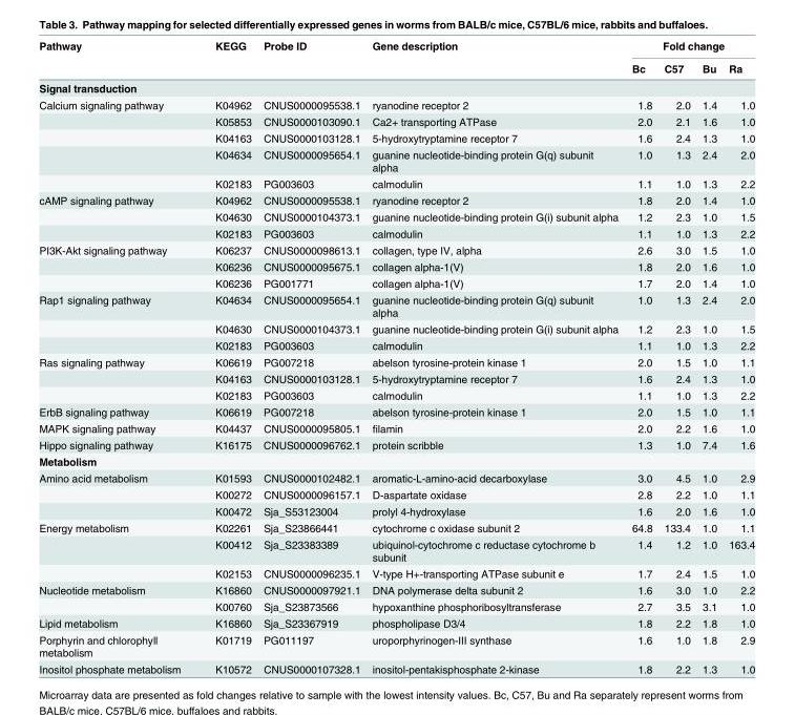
<table><thead><tr><td rowspan="2">Pathway</td><td rowspan="2">KEGG</td><td rowspan="2">Probe ID</td><td rowspan="2">Gene description</td><td colspan="4">Fold change</td></tr><tr><td>Bc</td><td>C57</td><td>Bu</td><td>Ra</td></tr></thead><tbody><tr><td colspan="8">Signal transduction</td></tr><tr><td rowspan="5">Calcium signaling pathway</td><td>K04962</td><td>CNUS0000095538.1</td><td>ryanodine receptor 2</td><td>1.8</td><td>2.0</td><td>1.4</td><td>1.0</td></tr><tr><td>K05853</td><td>CNUS0000103090.1</td><td>Ca2+ transporting ATPase</td><td>2.0</td><td>2.1</td><td>1.6</td><td>1.0</td></tr><tr><td>K04163</td><td>CNUS0000103128.1</td><td>5-hydroxytryptamine receptor 7</td><td>1.6</td><td>2.4</td><td>1.3</td><td>1.0</td></tr><tr><td>K04634</td><td>CNUS0000095654.1</td><td>guanine nucleotide-binding protein G(q) subunit alpha</td><td>1.0</td><td>1.3</td><td>2.4</td><td>2.0</td></tr><tr><td>K02183</td><td>PG003603</td><td>calmodulin</td><td>1.1</td><td>1.0</td><td>1.3</td><td>2.2</td></tr><tr><td rowspan="3">cAMP signaling pathway</td><td>K04962</td><td>CNUS0000095538.1</td><td>ryanodine receptor 2</td><td>1.8</td><td>2.0</td><td>1.4</td><td>1.0</td></tr><tr><td>K04630</td><td>CNUS0000104373.1</td><td>guanine nucleotide-binding protein G(i) subunit alpha</td><td>1.2</td><td>2.3</td><td>1.0</td><td>1.5</td></tr><tr><td>K02183</td><td>PG003603</td><td>calmodulin</td><td>1.1</td><td>1.0</td><td>1.3</td><td>2.2</td></tr><tr><td rowspan="3">PI3K-Akt signaling pathway</td><td>K06237</td><td>CNUS0000098613.1</td><td>collagen, type IV, alpha</td><td>2.6</td><td>3.0</td><td>1.5</td><td>1.0</td></tr><tr><td>K06236</td><td>CNUS0000095675.1</td><td>collagen alpha-1(V)</td><td>1.8</td><td>2.0</td><td>1.6</td><td>1.0</td></tr><tr><td>K06236</td><td>PG001771</td><td>collagen alpha-1(V)</td><td>1.7</td><td>2.0</td><td>1.4</td><td>1.0</td></tr><tr><td rowspan="3">Rap1 signaling pathway</td><td>K04634</td><td>CNUS0000095654.1</td><td>guanine nucleotide-binding protein G(q) subunit alpha</td><td>1.0</td><td>1.3</td><td>2.4</td><td>2.0</td></tr><tr><td>K04630</td><td>CNUS0000104373.1</td><td>guanine nucleotide-binding protein G(i) subunit alpha</td><td>1.2</td><td>2.3</td><td>1.0</td><td>1.5</td></tr><tr><td>K02183</td><td>PG003603</td><td>calmodulin</td><td>1.1</td><td>1.0</td><td>1.3</td><td>2.2</td></tr><tr><td rowspan="3">Ras signaling pathway</td><td>K06619</td><td>PG007218</td><td>abelson tyrosine-protein kinase 1</td><td>2.0</td><td>1.5</td><td>1.0</td><td>1.1</td></tr><tr><td>K04163</td><td>CNUS0000103128.1</td><td>5-hydroxytryptamine receptor 7</td><td>1.6</td><td>2.4</td><td>1.3</td><td>1.0</td></tr><tr><td>K02183</td><td>PG003603</td><td>calmodulin</td><td>1.1</td><td>1.0</td><td>1.3</td><td>2.2</td></tr><tr><td>ErbB signaling pathway</td><td>K06619</td><td>PG007218</td><td>abelson tyrosine-protein kinase 1</td><td>2.0</td><td>1.5</td><td>1.0</td><td>1.1</td></tr><tr><td>MAPK signaling pathway</td><td>K04437</td><td>CNUS0000095805.1</td><td>filamin</td><td>2.0</td><td>2.2</td><td>1.6</td><td>1.0</td></tr><tr><td>Hippo signaling pathway</td><td>K16175</td><td>CNUS0000096762.1</td><td>protein scribble</td><td>1.3</td><td>1.0</td><td>7.4</td><td>1.6</td></tr><tr><td colspan="8">Metabolism</td></tr><tr><td rowspan="3">Amino acid metabolism</td><td>K01593</td><td>CNUS0000102482.1</td><td>aromatic-L-amino-acid decarboxylase</td><td>3.0</td><td>4.5</td><td>1.0</td><td>2.9</td></tr><tr><td>K00272</td><td>CNUS0000096157.1</td><td>D-aspartate oxidase</td><td>2.8</td><td>2.2</td><td>1.0</td><td>1.1</td></tr><tr><td>K00472</td><td>Sja_S53123004</td><td>prolyl 4-hydroxylase</td><td>1.6</td><td>2.0</td><td>1.6</td><td>1.0</td></tr><tr><td rowspan="3">Energy metabolism</td><td>K02261</td><td>Sja_S23866441</td><td>cytochrome c oxidase subunit 2</td><td>64.8</td><td>133.4</td><td>1.0</td><td>1.1</td></tr><tr><td>K00412</td><td>Sja_S23383389</td><td>ubiquinol-cytochrome c reductase cytochrome b subunit</td><td>1.4</td><td>1.2</td><td>1.0</td><td>163.4</td></tr><tr><td>K02153</td><td>CNUS0000096235.1</td><td>V-type H+-transporting ATPase subunit e</td><td>1.7</td><td>2.4</td><td>1.5</td><td>1.0</td></tr><tr><td rowspan="2">Nucleotide metabolism</td><td>K16860</td><td>CNUS0000097921.1</td><td>DNA polymerase delta subunit 2</td><td>1.6</td><td>3.0</td><td>1.0</td><td>2.2</td></tr><tr><td>K00760</td><td>Sja_S23873566</td><td>hypoxanthine phosphoribosyltransferase</td><td>2.7</td><td>3.5</td><td>3.1</td><td>1.0</td></tr><tr><td>Lipid metabolism</td><td>K16860</td><td>Sja_S23367919</td><td>phospholipase D3/4</td><td>1.8</td><td>2.2</td><td>1.8</td><td>1.0</td></tr><tr><td>Porphyrin and chlorophyll metabolism</td><td>K01719</td><td>PG011197</td><td>uroporphyrinogen-III synthase</td><td>1.6</td><td>1.0</td><td>1.8</td><td>2.9</td></tr><tr><td>Inositol phosphate metabolism</td><td>K10572</td><td>CNUS0000107328.1</td><td>inositol-pentakisphosphate 2-kinase</td><td>1.8</td><td>2.2</td><td>1.3</td><td>1.0</td></tr></tbody></table>